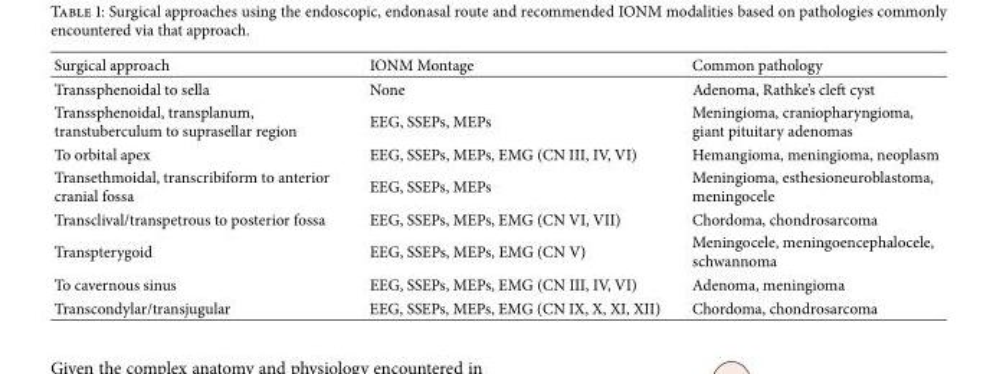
<table><thead><tr><td>Surgical approach</td><td>IONM Montage</td><td>Common pathology</td></tr></thead><tbody><tr><td>Transsphenoidal to sella</td><td>None</td><td>Adenoma, Rathke’s cleft cyst</td></tr><tr><td>Transsphenoidal, transplanum, transtuberculum to suprasellar region</td><td>EEG, SSEPs, MEPs</td><td>Meningioma, craniopharyngioma, giant pituitary adenomas</td></tr><tr><td>To orbital apex</td><td>EEG, SSEPs, MEPs, EMG (CN III, IV, VI)</td><td>Hemangioma, meningioma, neoplasm</td></tr><tr><td>Transethmoidal, transcribiform to anterior cranial fossa</td><td>EEG, SSEPs, MEPs</td><td>Meningioma, esthesioneuroblastoma, meningocele</td></tr><tr><td>Transclival/transpetrous to posterior fossa</td><td>EEG, SSEPs, MEPs, EMG (CN VI, VII)</td><td>Chordoma, chondrosarcoma</td></tr><tr><td>Transpterygoid</td><td>EEG, SSEPs, MEPs, EMG (CN V)</td><td>Meningocele, meningoencephalocele, schwannoma</td></tr><tr><td>To cavernous sinus</td><td>EEG, SSEPs, MEPs, EMG (CN III, IV, VI)</td><td>Adenoma, meningioma</td></tr><tr><td>Transcondylar/transjugular</td><td>EEG, SSEPs, MEPs, EMG (CN IX, X, XI, XII)</td><td>Chordoma, chondrosarcoma</td></tr></tbody></table>